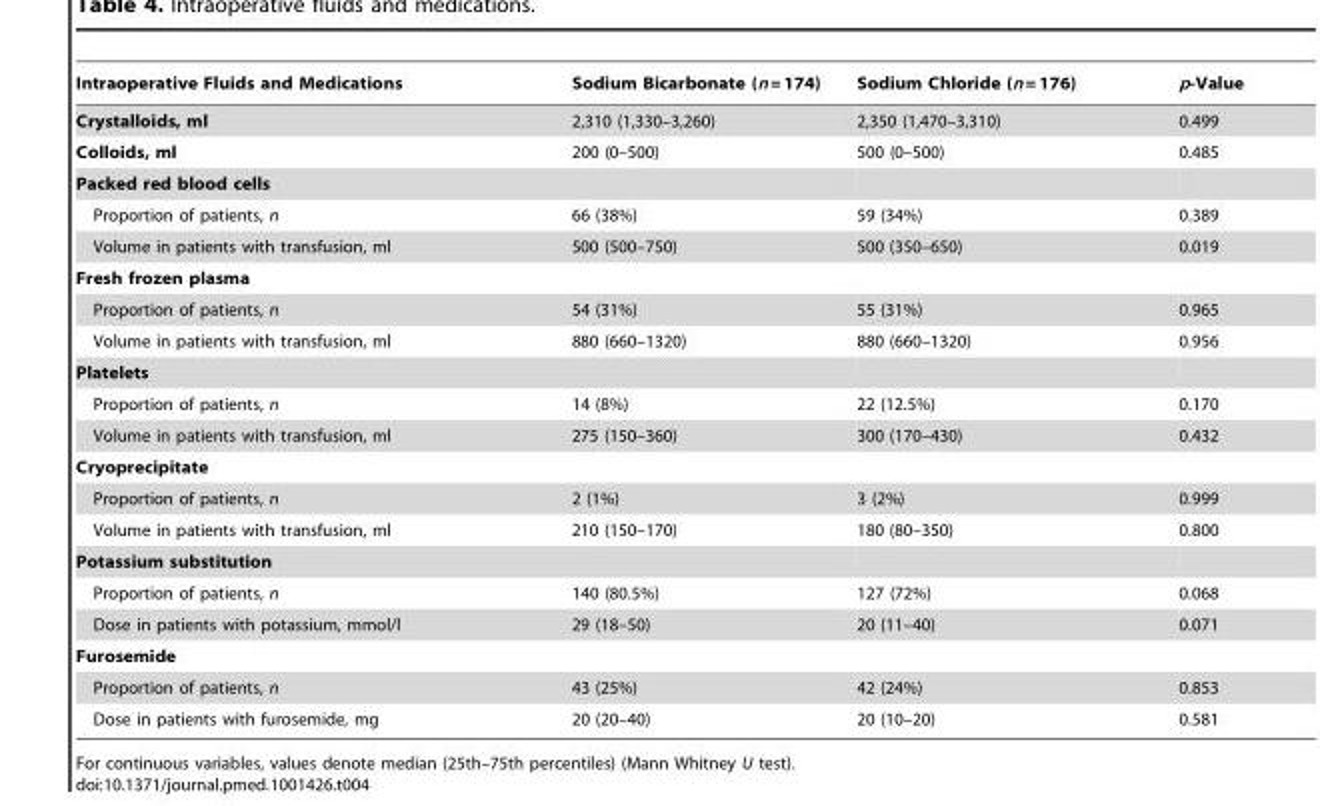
<table><thead><tr><td>Intraoperative Fluids and Medications</td><td>Sodium Bicarbonate (n = 174)</td><td>Sodium Chloride (n = 176)</td><td>p-Value</td></tr></thead><tbody><tr><td>Crystalloids, ml</td><td>2,310 (1,330–3,260)</td><td>2,350 (1,470–3,310)</td><td>0.499</td></tr><tr><td>Colloids, ml</td><td>200 (0–500)</td><td>500 (0–500)</td><td>0.485</td></tr><tr><td colspan="4">Packed red blood cells</td></tr><tr><td>Proportion of patients, n</td><td>66 (38%)</td><td>59 (34%)</td><td>0.389</td></tr><tr><td>Volume in patients with transfusion, ml</td><td>500 (500–750)</td><td>500 (350–650)</td><td>0.019</td></tr><tr><td colspan="4">Fresh frozen plasma</td></tr><tr><td>Proportion of patients, n</td><td>54 (31%)</td><td>55 (31%)</td><td>0.965</td></tr><tr><td>Volume in patients with transfusion, ml</td><td>880 (660–1320)</td><td>880 (660–1320)</td><td>0.956</td></tr><tr><td colspan="4">Platelets</td></tr><tr><td>Proportion of patients, n</td><td>14 (8%)</td><td>22 (12.5%)</td><td>0.170</td></tr><tr><td>Volume in patients with transfusion, ml</td><td>275 (150–360)</td><td>300 (170–430)</td><td>0.432</td></tr><tr><td colspan="4">Cryoprecipitate</td></tr><tr><td>Proportion of patients, n</td><td>2 (1%)</td><td>3 (2%)</td><td>0.999</td></tr><tr><td>Volume in patients with transfusion, ml</td><td>210 (150–170)</td><td>180 (80–350)</td><td>0.800</td></tr><tr><td colspan="4">Potassium substitution</td></tr><tr><td>Proportion of patients, n</td><td>140 (80.5%)</td><td>127 (72%)</td><td>0.068</td></tr><tr><td>Dose in patients with potassium, mmol/l</td><td>29 (18–50)</td><td>20 (11–40)</td><td>0.071</td></tr><tr><td colspan="4">Furosemide</td></tr><tr><td>Proportion of patients, n</td><td>43 (25%)</td><td>42 (24%)</td><td>0.853</td></tr><tr><td>Dose in patients with furosemide, mg</td><td>20 (20–40)</td><td>20 (10–20)</td><td>0.581</td></tr></tbody></table>